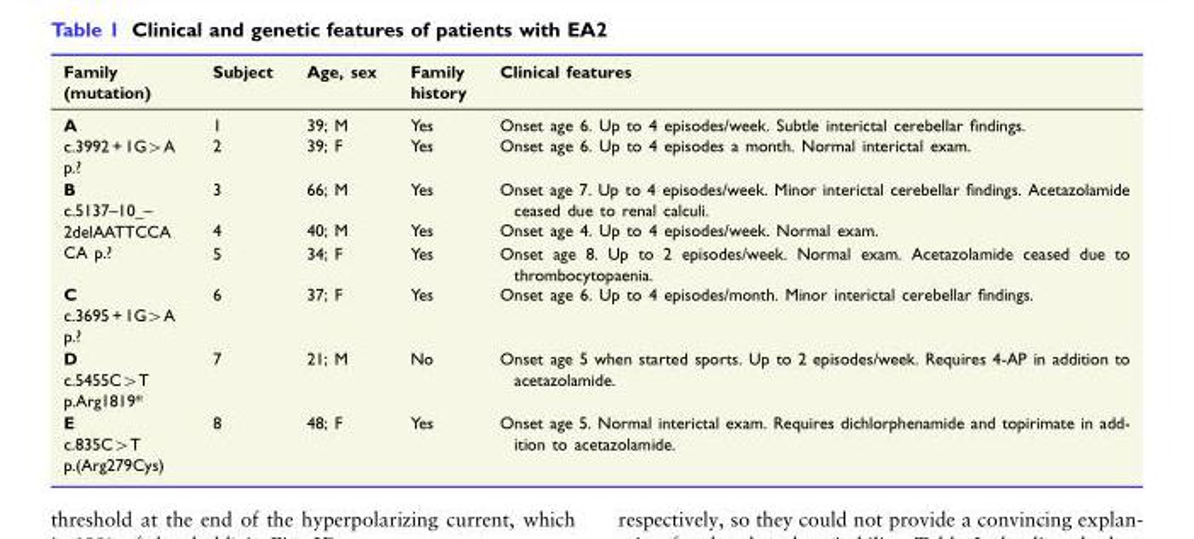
<table><thead><tr><td>Family (mutation)</td><td>Subject</td><td>Age, sex</td><td>Family history</td><td>Clinical features</td></tr></thead><tbody><tr><td rowspan="2">A c.3992 + 1G&gt;A p.?</td><td>1</td><td>39; M</td><td>Yes</td><td>Onset age 6. Up to 4 episodes/week. Subtle interictal cerebellar findings.</td></tr><tr><td>2</td><td>39; F</td><td>Yes</td><td>Onset age 6. Up to 4 episodes a month. Normal interictal exam.</td></tr><tr><td rowspan="3">B c.5137–10_– 2delAATTCCA CA p.?</td><td>3</td><td>66; M</td><td>Yes</td><td>Onset age 7. Up to 4 episodes/week. Minor interictal cerebellar findings. Acetazolamide ceased due to renal calculi.</td></tr><tr><td>4</td><td>40; M</td><td>Yes</td><td>Onset age 4. Up to 4 episodes/week. Normal exam.</td></tr><tr><td>5</td><td>34; F</td><td>Yes</td><td>Onset age 8. Up to 2 episodes/week. Normal exam. Acetazolamide ceased due to thrombocytopaenia.</td></tr><tr><td>C c.3695 + 1G&gt;A p.?</td><td>6</td><td>37; F</td><td>Yes</td><td>Onset age 6. Up to 4 episodes/month. Minor interictal cerebellar findings.</td></tr><tr><td>D c.5455C&gt;T p.Arg1819*</td><td>7</td><td>21; M</td><td>No</td><td>Onset age 5 when started sports. Up to 2 episodes/week. Requires 4-AP in addition to acetazolamide.</td></tr><tr><td>E c.835C&gt;T p.(Arg279Cys)</td><td>8</td><td>48; F</td><td>Yes</td><td>Onset age 5. Normal interictal exam. Requires dichlorphenamide and topirimate in add- ition to acetazolamide.</td></tr></tbody></table>